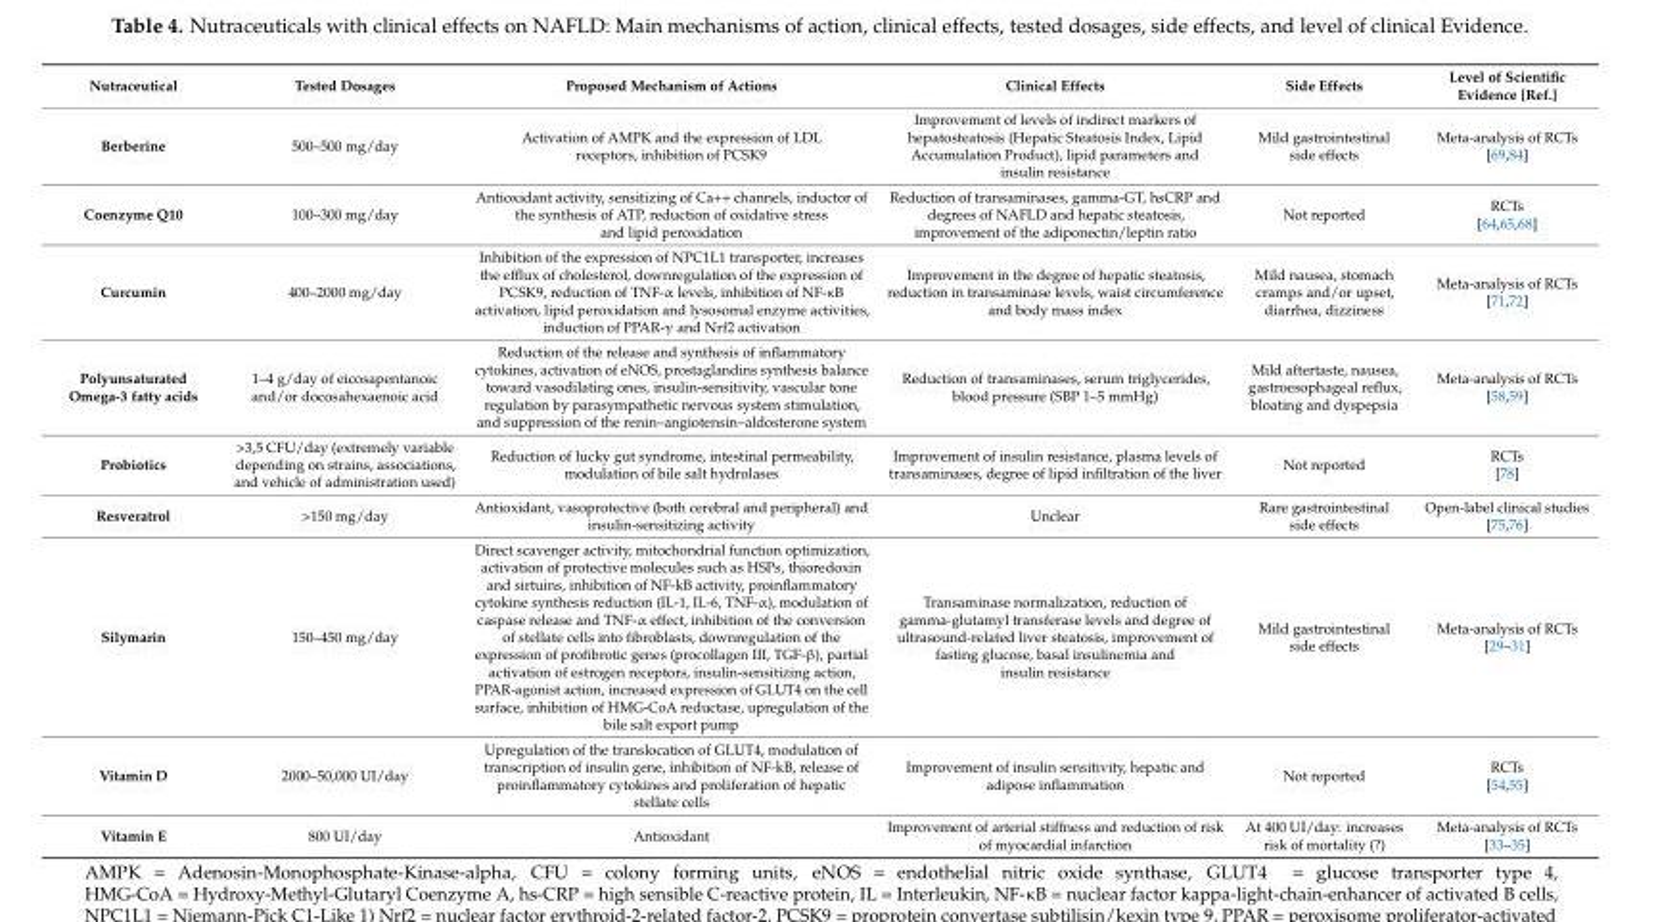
<table><thead><tr><td>Nutraceutical</td><td>Tested Dosages</td><td>Proposed Mechanism of Actions</td><td>Clinical Effects</td><td>Side Effects</td><td>Level of Scientific Evidence [Ref.]</td></tr></thead><tbody><tr><td>Berberine</td><td>500–500 mg/day</td><td>Activation of AMPK and the expression of LDL receptors, inhibition of PCSK9</td><td>Improvement of levels of indirect markers of hepatosteatosis (Hepatic Steatosis Index, Lipid Accumulation Product), lipid parameters and insulin resistance</td><td>Mild gastrointestinal side effects</td><td>Meta-analysis of RCTs [69,84]</td></tr><tr><td>Coenzyme Q10</td><td>100–300 mg/day</td><td>Antioxidant activity, sensitizing of Ca++ channels, inductor of the synthesis of ATP, reduction of oxidative stress and lipid peroxidation</td><td>Reduction of transaminases, gamma-GT, hsCRP and degrees of NAFLD and hepatic steatosis, improvement of the adiponectin/leptin ratio</td><td>Not reported</td><td>RCTs [64,65,68]</td></tr><tr><td>Curcumin</td><td>400–2000 mg/day</td><td>Inhibition of the expression of NPC1L1 transporter, increases the efflux of cholesterol, downregulation of the expression of PCSK9, reduction of TNF-α levels, inhibition of NF-κB activation, lipid peroxidation and lysosomal enzyme activities, induction of PPAR-γ and Nrf2 activation</td><td>Improvement in the degree of hepatic steatosis, reduction in transaminase levels, waist circumference and body mass index</td><td>Mild nausea, stomach cramps and/or upset, diarrhea, dizziness</td><td>Meta-analysis of RCTs [71,72]</td></tr><tr><td>Polyunsaturated Omega-3 fatty acids</td><td>1–4 g/day of eicosapentanoic and/or docosahexaenoic acid</td><td>Reduction of the release and synthesis of inflammatory cytokines, activation of eNOS, prostaglandins synthesis balance toward vasodilating ones, insulin-sensitivity, vascular tone regulation by parasympathetic nervous system stimulation, and suppression of the renin–angiotensin–aldosterone system</td><td>Reduction of transaminases, serum triglycerides, blood pressure (SBP 1–5 mmHg)</td><td>Mild aftertaste, nausea, gastroesophageal reflux, bloating and dyspepsia</td><td>Meta-analysis of RCTs [58,59]</td></tr><tr><td>Probiotics</td><td>&gt;3,5 CFU/day (extremely variable depending on strains, associations, and vehicle of administration used)</td><td>Reduction of lucky gut syndrome, intestinal permeability, modulation of bile salt hydrolases</td><td>Improvement of insulin resistance, plasma levels of transaminases, degree of lipid infiltration of the liver</td><td>Not reported</td><td>RCTs [78]</td></tr><tr><td>Resveratrol</td><td>&gt;150 mg/day</td><td>Antioxidant, vasoprotective (both cerebral and peripheral) and insulin-sensitizing activity</td><td>Unclear</td><td>Rare gastrointestinal side effects</td><td>Open-label clinical studies [75,76]</td></tr><tr><td>Silymarin</td><td>150–450 mg/day</td><td>Direct scavenger activity, mitochondrial function optimization, activation of protective molecules such as HSPs, thioredoxin and sirtuins, inhibition of NF-kB activity, proinflammatory cytokine synthesis reduction (IL-1, IL-6, TNF-α), modulation of caspase release and TNF-α effect, inhibition of the conversion of stellate cells into fibroblasts, downregulation of the expression of profibrotic genes (procollagen III, TGF-β), partial activation of estrogen receptors, insulin-sensitizing action, PPAR-agonist action, increased expression of GLUT4 on the cell surface, inhibition of HMG-CoA reductase, upregulation of the bile salt export pump</td><td>Transaminase normalization, reduction of gamma-glutamyl transferase levels and degree of ultrasound-related liver steatosis, improvement of fasting glucose, basal insulinemia and insulin resistance</td><td>Mild gastrointestinal side effects</td><td>Meta-analysis of RCTs [29–31]</td></tr><tr><td>Vitamin D</td><td>2000–50,000 UI/day</td><td>Upregulation of the translocation of GLUT4, modulation of transcription of insulin gene, inhibition of NF-kB, release of proinflammatory cytokines and proliferation of hepatic stellate cells</td><td>Improvement of insulin sensitivity, hepatic and adipose inflammation</td><td>Not reported</td><td>RCTs [54,55]</td></tr><tr><td>Vitamin E</td><td>800 UI/day</td><td>Antioxidant</td><td>Improvement of arterial stiffness and reduction of risk of myocardial infarction</td><td>At 400 UI/day: increases risk of mortality (?)</td><td>Meta-analysis of RCTs [33–35]</td></tr></tbody></table>